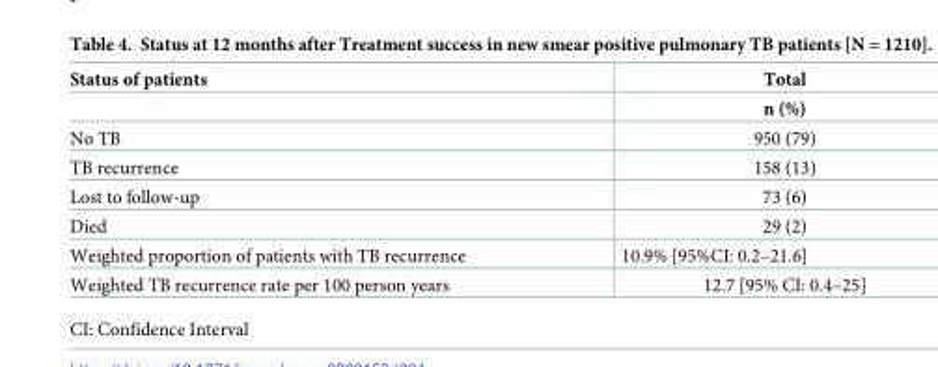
<table><thead><tr><td rowspan="2">Status of patients</td><td rowspan="2">Total n (%)</td></tr><tr></tr></thead><tbody><tr><td>No TB</td><td>950 (79)</td></tr><tr><td>TB recurrence</td><td>158 (13)</td></tr><tr><td>Lost to follow-up</td><td>73 (6)</td></tr><tr><td>Died</td><td>29 (2)</td></tr><tr><td>Weighted proportion of patients with TB recurrence</td><td>10.9% [95%CI: 0.2–21.6]</td></tr><tr><td>Weighted TB recurrence rate per 100 person years</td><td>12.7 [95% CI: 0.4–25]</td></tr></tbody></table>